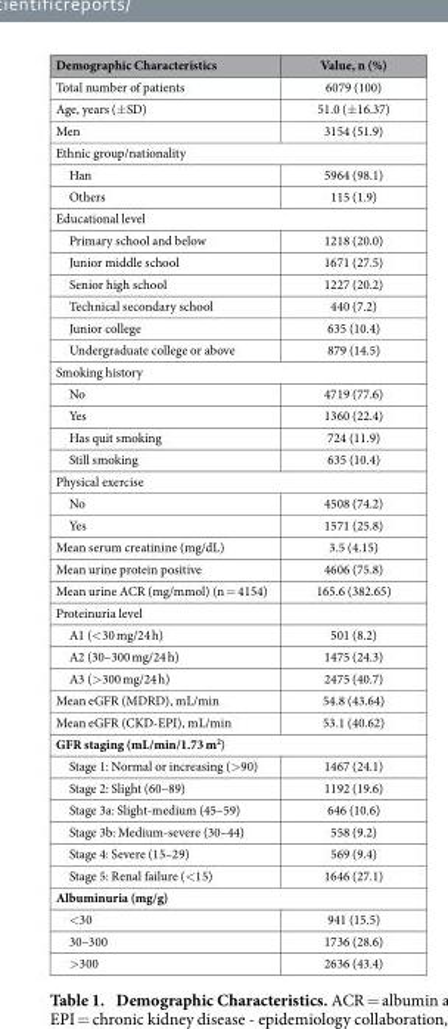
<table><thead><tr><td>Demographic Characteristics</td><td>Value, n (%)</td></tr></thead><tbody><tr><td>Total number of patients</td><td>6079 (100)</td></tr><tr><td>Age, years (± SD)</td><td>51.0 (± 16.37)</td></tr><tr><td>Men</td><td>3154 (51.9)</td></tr><tr><td colspan="2">Ethnic group/nationality</td></tr><tr><td>Han</td><td>5964 (98.1)</td></tr><tr><td>Others</td><td>115 (1.9)</td></tr><tr><td colspan="2">Educational level</td></tr><tr><td>Primary school and below</td><td>1218 (20.0)</td></tr><tr><td>Junior middle school</td><td>1671 (27.5)</td></tr><tr><td>Senior high school</td><td>1227 (20.2)</td></tr><tr><td>Technical secondary school</td><td>440 (7.2)</td></tr><tr><td>Junior college</td><td>635 (10.4)</td></tr><tr><td>Undergraduate college or above</td><td>879 (14.5)</td></tr><tr><td colspan="2">Smoking history</td></tr><tr><td>No</td><td>4719 (77.6)</td></tr><tr><td>Yes</td><td>1360 (22.4)</td></tr><tr><td>Has quit smoking</td><td>724 (11.9)</td></tr><tr><td>Still smoking</td><td>635 (10.4)</td></tr><tr><td colspan="2">Physical exercise</td></tr><tr><td>No</td><td>4508 (74.2)</td></tr><tr><td>Yes</td><td>1571 (25.8)</td></tr><tr><td>Mean serum creatinine (mg/dL)</td><td>3.5 (4.15)</td></tr><tr><td>Mean urine protein positive</td><td>4606 (75.8)</td></tr><tr><td>Mean urine ACR (mg/mmol) (n = 4154)</td><td>165.6 (382.65)</td></tr><tr><td colspan="2">Proteinuria level</td></tr><tr><td>A1 (&lt; 30 mg/24 h)</td><td>501 (8.2)</td></tr><tr><td>A2 (30–300 mg/24 h)</td><td>1475 (24.3)</td></tr><tr><td>A3 (&gt; 300 mg/24 h)</td><td>2475 (40.7)</td></tr><tr><td>Mean eGFR (MDRD), mL/min</td><td>54.8 (43.64)</td></tr><tr><td>Mean eGFR (CKD-EPI), mL/min</td><td>53.1 (40.62)</td></tr><tr><td colspan="2">GFR staging (mL/min/1.73 m<sup>2</sup>)</td></tr><tr><td>Stage 1: Normal or increasing (&gt; 90)</td><td>1467 (24.1)</td></tr><tr><td>Stage 2: Slight (60–89)</td><td>1192 (19.6)</td></tr><tr><td>Stage 3a: Slight-medium (45–59)</td><td>646 (10.6)</td></tr><tr><td>Stage 3b: Medium-severe (30–44)</td><td>558 (9.2)</td></tr><tr><td>Stage 4: Severe (15–29)</td><td>569 (9.4)</td></tr><tr><td>Stage 5: Renal failure (&lt; 15)</td><td>1646 (27.1)</td></tr><tr><td colspan="2">Albuminuria (mg/g)</td></tr><tr><td>&lt; 30</td><td>941 (15.5)</td></tr><tr><td>30–300</td><td>1736 (28.6)</td></tr><tr><td>&gt; 300</td><td>2636 (43.4)</td></tr></tbody></table>